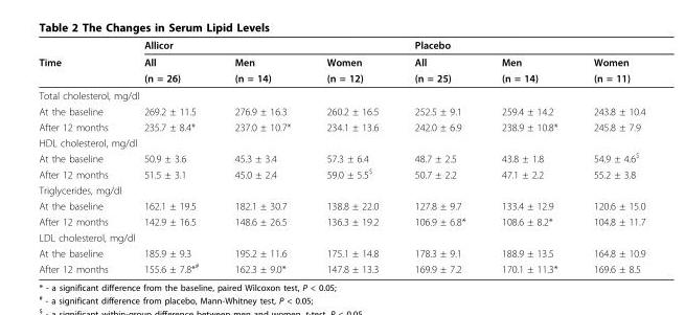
<table><thead><tr><td rowspan="3">Time</td><td colspan="3">Allicor</td><td colspan="3">Placebo</td></tr><tr><td rowspan="2">All (n = 26)</td><td rowspan="2">Men (n = 14)</td><td rowspan="2">Women (n = 12)</td><td rowspan="2">All (n = 25)</td><td rowspan="2">Men (n = 14)</td><td rowspan="2">Women (n = 11)</td></tr><tr></tr></thead><tbody><tr><td colspan="7">Total cholesterol, mg/dl</td></tr><tr><td>At the baseline</td><td>269.2 ± 11.5</td><td>276.9 ± 16.3</td><td>260.2 ± 16.5</td><td>252.5 ± 9.1</td><td>259.4 ± 14.2</td><td>243.8 ± 10.4</td></tr><tr><td>After 12 months</td><td>235.7 ± 8.4*</td><td>237.0 ± 10.7*</td><td>234.1 ± 13.6</td><td>242.0 ± 6.9</td><td>238.9 ± 10.8*</td><td>245.8 ± 7.9</td></tr><tr><td colspan="7">HDL cholesterol, mg/dl</td></tr><tr><td>At the baseline</td><td>50.9 ± 3.6</td><td>45.3 ± 3.4</td><td>57.3 ± 6.4</td><td>48.7 ± 2.5</td><td>43.8 ± 1.8</td><td>54.9 ± 4.6<sup>$</sup></td></tr><tr><td>After 12 months</td><td>51.5 ± 3.1</td><td>45.0 ± 2.4</td><td>59.0 ± 5.5<sup>$</sup></td><td>50.7 ± 2.2</td><td>47.1 ± 2.2</td><td>55.2 ± 3.8</td></tr><tr><td colspan="7">Triglycerides, mg/dl</td></tr><tr><td>At the baseline</td><td>162.1 ± 19.5</td><td>182.1 ± 30.7</td><td>138.8 ± 22.0</td><td>127.8 ± 9.7</td><td>133.4 ± 12.9</td><td>120.6 ± 15.0</td></tr><tr><td>After 12 months</td><td>142.9 ± 16.5</td><td>148.6 ± 26.5</td><td>136.3 ± 19.2</td><td>106.9 ± 6.8*</td><td>108.6 ± 8.2*</td><td>104.8 ± 11.7</td></tr><tr><td colspan="7">LDL cholesterol, mg/dl</td></tr><tr><td>At the baseline</td><td>185.9 ± 9.3</td><td>195.2 ± 11.6</td><td>175.1 ± 14.8</td><td>178.3 ± 9.1</td><td>188.9 ± 13.5</td><td>164.8 ± 10.9</td></tr><tr><td>After 12 months</td><td>155.6 ± 7.8*<sup>#</sup></td><td>162.3 ± 9.0*</td><td>147.8 ± 13.3</td><td>169.9 ± 7.2</td><td>170.1 ± 11.3*</td><td>169.6 ± 8.5</td></tr></tbody></table>